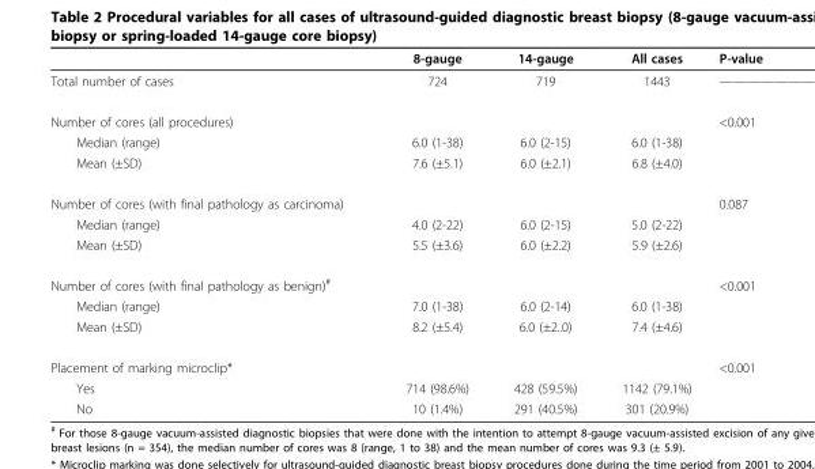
<table><thead><tr><td></td><td>8-gauge</td><td>14-gauge</td><td>All cases</td><td>P-value</td></tr></thead><tbody><tr><td>Total number of cases</td><td>724</td><td>719</td><td>1443</td><td></td></tr><tr><td>Number of cores (all procedures)</td><td></td><td></td><td></td><td>&lt;0.001</td></tr><tr><td>Median (range)</td><td>6.0 (1-38)</td><td>6.0 (2-15)</td><td>6.0 (1-38)</td><td></td></tr><tr><td>Mean (±SD)</td><td>7.6 (±5.1)</td><td>6.0 (±2.1)</td><td>6.8 (±4.0)</td><td></td></tr><tr><td>Number of cores (with final pathology as carcinoma)</td><td></td><td></td><td></td><td>0.087</td></tr><tr><td>Median (range)</td><td>4.0 (2-22)</td><td>6.0 (2-15)</td><td>5.0 (2-22)</td><td></td></tr><tr><td>Mean (±SD)</td><td>5.5 (±3.6)</td><td>6.0 (±2.2)</td><td>5.9 (±2.6)</td><td></td></tr><tr><td>Number of cores (with final pathology as benign)<sup>#</sup></td><td></td><td></td><td></td><td>&lt;0.001</td></tr><tr><td>Median (range)</td><td>7.0 (1-38)</td><td>6.0 (2-14)</td><td>6.0 (1-38)</td><td></td></tr><tr><td>Mean (±SD)</td><td>8.2 (±5.4)</td><td>6.0 (±2..0)</td><td>7.4 (±4.6)</td><td></td></tr><tr><td>Placement of marking microclip*</td><td></td><td></td><td></td><td>&lt;0.001</td></tr><tr><td>Yes</td><td>714 (98.6%)</td><td>428 (59.5%)</td><td>1142 (79.1%)</td><td></td></tr><tr><td>No</td><td>10 (1.4%)</td><td>291 (40.5%)</td><td>301 (20.9%)</td><td></td></tr></tbody></table>